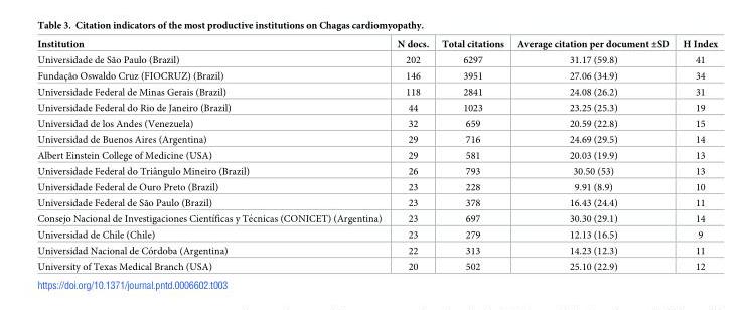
<table><thead><tr><td>Institution</td><td>N docs.</td><td>Total citations</td><td>Average citation per document ±SD</td><td>H Index</td></tr></thead><tbody><tr><td>Universidade de São Paulo (Brazil)</td><td>202</td><td>6297</td><td>31.17 (59.8)</td><td>41</td></tr><tr><td>Fundac¸ão Oswaldo Cruz (FIOCRUZ) (Brazil)</td><td>146</td><td>3951</td><td>27.06 (34.9)</td><td>34</td></tr><tr><td>Universidade Federal de Minas Gerais (Brazil)</td><td>118</td><td>2841</td><td>24.08 (26.2)</td><td>31</td></tr><tr><td>Universidade Federal do Rio de Janeiro (Brazil)</td><td>44</td><td>1023</td><td>23.25 (25.3)</td><td>19</td></tr><tr><td>Universidad de los Andes (Venezuela)</td><td>32</td><td>659</td><td>20.59 (22.8)</td><td>15</td></tr><tr><td>Universidad de Buenos Aires (Argentina)</td><td>29</td><td>716</td><td>24.69 (29.5)</td><td>14</td></tr><tr><td>Albert Einstein College of Medicine (USA)</td><td>29</td><td>581</td><td>20.03 (19.9)</td><td>13</td></tr><tr><td>Universidade Federal do Triaˆngulo Mineiro (Brazil)</td><td>26</td><td>793</td><td>30.50 (53)</td><td>13</td></tr><tr><td>Universidade Federal de Ouro Preto (Brazil)</td><td>23</td><td>228</td><td>9.91 (8.9)</td><td>10</td></tr><tr><td>Universidade Federal de São Paulo (Brazil)</td><td>23</td><td>378</td><td>16.43 (24.4)</td><td>11</td></tr><tr><td>Consejo Nacional de Investigaciones Cientı´ficas y Te´cnicas (CONICET) (Argentina)</td><td>23</td><td>697</td><td>30.30 (29.1)</td><td>14</td></tr><tr><td>Universidad de Chile (Chile)</td><td>23</td><td>279</td><td>12.13 (16.5)</td><td>9</td></tr><tr><td>Universidad Nacional de Co´rdoba (Argentina)</td><td>22</td><td>313</td><td>14.23 (12.3)</td><td>11</td></tr><tr><td>University of Texas Medical Branch (USA)</td><td>20</td><td>502</td><td>25.10 (22.9)</td><td>12</td></tr></tbody></table>